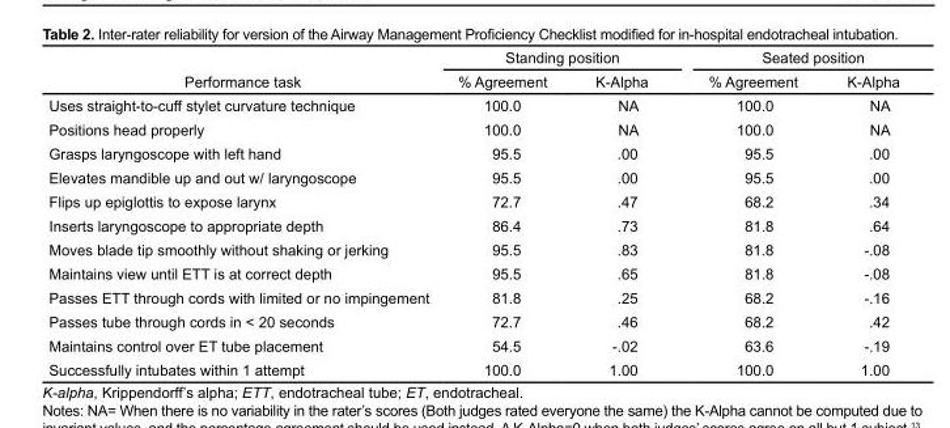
<table><thead><tr><td rowspan="2">Performance task</td><td colspan="2">Standing position</td><td colspan="2">Seated position</td></tr><tr><td>% Agreement</td><td>K-Alpha</td><td>% Agreement</td><td>K-Alpha</td></tr></thead><tbody><tr><td>Uses straight-to-cuff stylet curvature technique</td><td>100.0</td><td>NA</td><td>100.0</td><td>NA</td></tr><tr><td>Positions head properly</td><td>100.0</td><td>NA</td><td>100.0</td><td>NA</td></tr><tr><td>Grasps laryngoscope with left hand</td><td>95.5</td><td>.00</td><td>95.5</td><td>.00</td></tr><tr><td>Elevates mandible up and out w/ laryngoscope</td><td>95.5</td><td>.00</td><td>95.5</td><td>.00</td></tr><tr><td>Flips up epiglottis to expose larynx</td><td>72.7</td><td>.47</td><td>68.2</td><td>.34</td></tr><tr><td>Inserts laryngoscope to appropriate depth</td><td>86.4</td><td>.73</td><td>81.8</td><td>.64</td></tr><tr><td>Moves blade tip smoothly without shaking or jerking</td><td>95.5</td><td>.83</td><td>81.8</td><td>-.08</td></tr><tr><td>Maintains view until ETT is at correct depth</td><td>95.5</td><td>.65</td><td>81.8</td><td>-.08</td></tr><tr><td>Passes ETT through cords with limited or no impingement</td><td>81.8</td><td>.25</td><td>68.2</td><td>-.16</td></tr><tr><td>Passes tube through cords in &lt; 20 seconds</td><td>72.7</td><td>.46</td><td>68.2</td><td>.42</td></tr><tr><td>Maintains control over ET tube placement</td><td>54.5</td><td>-.02</td><td>63.6</td><td>-.19</td></tr><tr><td>Successfully intubates within 1 attempt</td><td>100.0</td><td>1.00</td><td>100.0</td><td>1.00</td></tr></tbody></table>